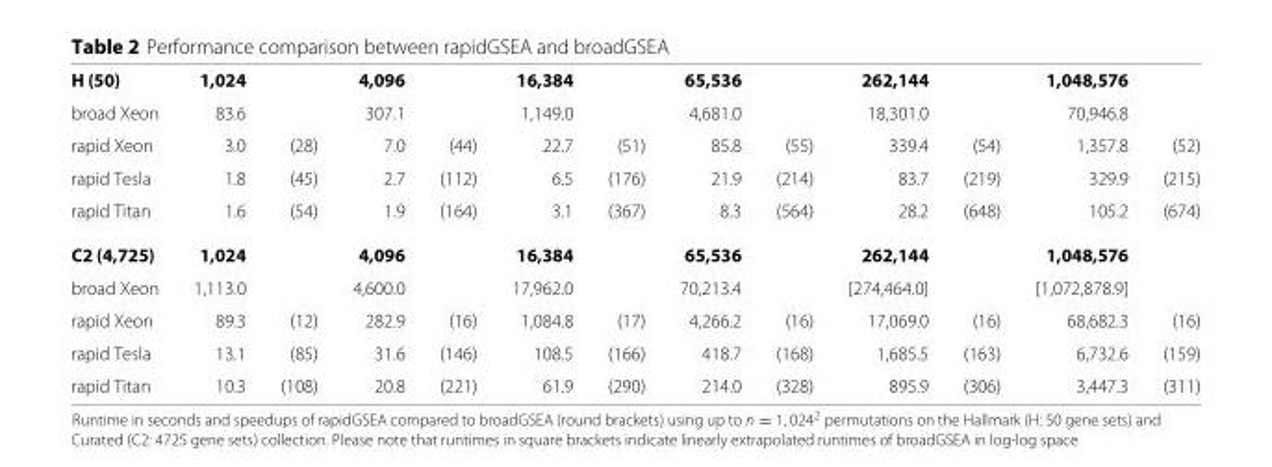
<table><tbody><tr><td>H (50)</td><td>1,024</td><td></td><td>4,096</td><td></td><td>16,384</td><td></td><td>65,536</td><td></td><td>262,144</td><td></td><td>1,048,576</td><td></td></tr><tr><td>broad Xeon</td><td>83.6</td><td></td><td>307.1</td><td></td><td>1,149.0</td><td></td><td>4,681.0</td><td></td><td>18,301.0</td><td></td><td>70,946.8</td><td></td></tr><tr><td>rapid Xeon</td><td>3.0</td><td>(28)</td><td>7.0</td><td>(44)</td><td>22.7</td><td>(51)</td><td>85.8</td><td>(55)</td><td>339.4</td><td>(54)</td><td>1,357.8</td><td>(52)</td></tr><tr><td>rapid Tesla</td><td>1.8</td><td>(45)</td><td>2.7</td><td>(112)</td><td>6.5</td><td>(176)</td><td>21.9</td><td>(214)</td><td>83.7</td><td>(219)</td><td>329.9</td><td>(215)</td></tr><tr><td>rapid Titan</td><td>1.6</td><td>(54)</td><td>1.9</td><td>(164)</td><td>3.1</td><td>(367)</td><td>8.3</td><td>(564)</td><td>28.2</td><td>(648)</td><td>105.2</td><td>(674)</td></tr><tr><td>C2 (4,725)</td><td>1,024</td><td></td><td>4,096</td><td></td><td>16,384</td><td></td><td>65,536</td><td></td><td>262,144</td><td></td><td>1,048,576</td><td></td></tr><tr><td>broad Xeon</td><td>1,113.0</td><td></td><td>4,600.0</td><td></td><td>17,962.0</td><td></td><td>70,213.4</td><td></td><td>[274,464.0]</td><td></td><td>[1,072,878.9]</td><td></td></tr><tr><td>rapid Xeon</td><td>89.3</td><td>(12)</td><td>282.9</td><td>(16)</td><td>1,084.8</td><td>(17)</td><td>4,266.2</td><td>(16)</td><td>17,069.0</td><td>(16)</td><td>68,682.3</td><td>(16)</td></tr><tr><td>rapid Tesla</td><td>13.1</td><td>(85)</td><td>31.6</td><td>(146)</td><td>108.5</td><td>(166)</td><td>418.7</td><td>(168)</td><td>1,685.5</td><td>(163)</td><td>6,732.6</td><td>(159)</td></tr><tr><td>rapid Titan</td><td>10.3</td><td>(108)</td><td>20.8</td><td>(221)</td><td>61.9</td><td>(290)</td><td>214.0</td><td>(328)</td><td>895.9</td><td>(306)</td><td>3,447.3</td><td>(311)</td></tr></tbody></table>